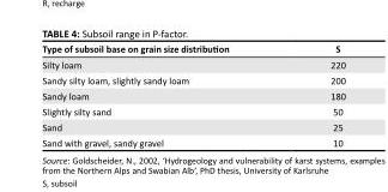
<table><thead><tr><td>Type of subsoil base on grain size distribution</td><td>S</td></tr></thead><tbody><tr><td>Silty loam</td><td>220</td></tr><tr><td>Sandy silty loam, slightly sandy loam</td><td>200</td></tr><tr><td>Sandy loam</td><td>180</td></tr><tr><td>Slightly silty sand</td><td>50</td></tr><tr><td>Sand</td><td>25</td></tr><tr><td>Sand with gravel, sandy gravel</td><td>10</td></tr></tbody></table>